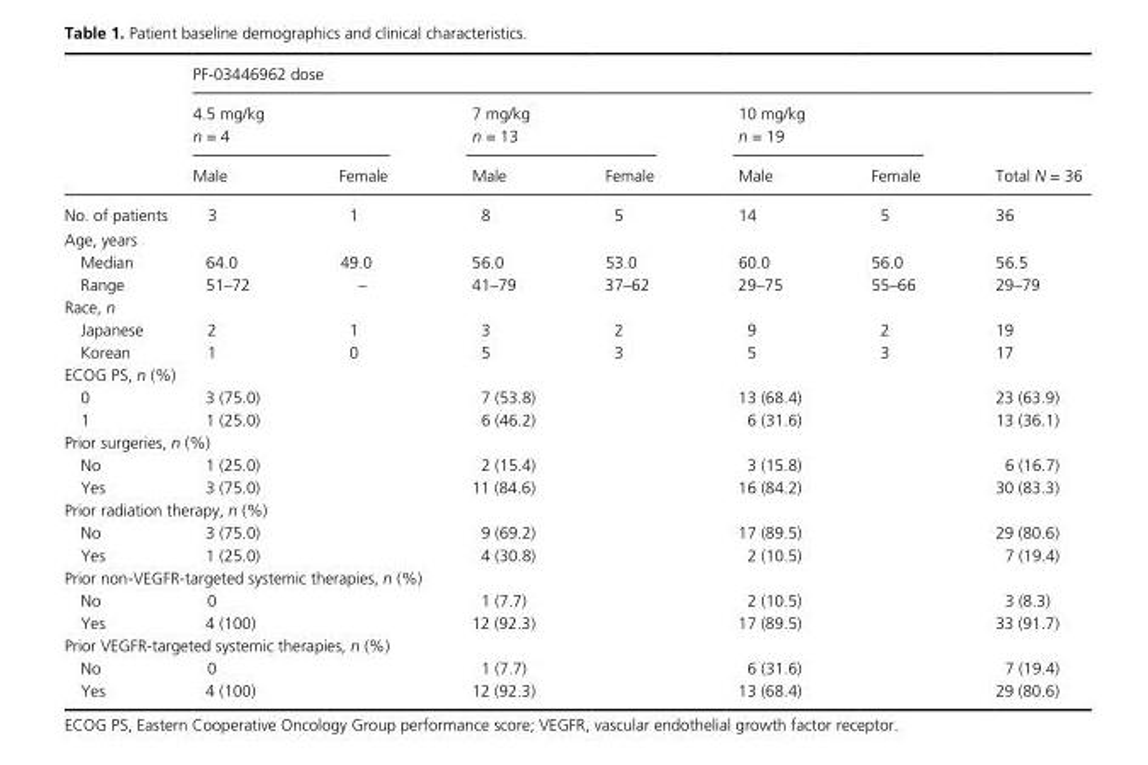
<table><thead><tr><td rowspan="3"></td><td colspan="6">PF- 03446962 dose</td><td rowspan="3">Total N = 36</td></tr><tr><td colspan="2">4.5 mg/kg n = 4</td><td colspan="2">7 mg/kg n = 13</td><td colspan="2">10 mg/kg n = 19</td></tr><tr><td>Male</td><td>Female</td><td>Male</td><td>Female</td><td>Male</td><td>Female</td></tr></thead><tbody><tr><td>No. of patients</td><td>3</td><td>1</td><td>8</td><td>5</td><td>14</td><td>5</td><td>36</td></tr><tr><td colspan="8">Age, years</td></tr><tr><td>Median</td><td>64.0</td><td>49.0</td><td>56.0</td><td>53.0</td><td>60.0</td><td>56.0</td><td>56.5</td></tr><tr><td>Range</td><td>51–72</td><td>–</td><td>41–79</td><td>37–62</td><td>29–75</td><td>55–66</td><td>29–79</td></tr><tr><td colspan="8">Race, n</td></tr><tr><td>Japanese</td><td>2</td><td>1</td><td>3</td><td>2</td><td>9</td><td>2</td><td>19</td></tr><tr><td>Korean</td><td>1</td><td>0</td><td>5</td><td>3</td><td>5</td><td>3</td><td>17</td></tr><tr><td colspan="8">ECOG PS, n (%)</td></tr><tr><td>0</td><td>3 (75.0)</td><td></td><td>7 (53.8)</td><td></td><td>13 (68.4)</td><td></td><td>23 (63.9)</td></tr><tr><td>1</td><td>1 (25.0)</td><td></td><td>6 (46.2)</td><td></td><td>6 (31.6)</td><td></td><td>13 (36.1)</td></tr><tr><td colspan="8">Prior surgeries, n (%)</td></tr><tr><td>No</td><td>1 (25.0)</td><td></td><td>2 (15.4)</td><td></td><td>3 (15.8)</td><td></td><td>6 (16.7)</td></tr><tr><td>Yes</td><td>3 (75.0)</td><td></td><td>11 (84.6)</td><td></td><td>16 (84.2)</td><td></td><td>30 (83.3)</td></tr><tr><td colspan="8">Prior radiation therapy, n (%)</td></tr><tr><td>No</td><td>3 (75.0)</td><td></td><td>9 (69.2)</td><td></td><td>17 (89.5)</td><td></td><td>29 (80.6)</td></tr><tr><td>Yes</td><td>1 (25.0)</td><td></td><td>4 (30.8)</td><td></td><td>2 (10.5)</td><td></td><td>7 (19.4)</td></tr><tr><td colspan="8">Prior non- VEGFR- targeted systemic therapies, n (%)</td></tr><tr><td>No</td><td>0</td><td></td><td>1 (7.7)</td><td></td><td>2 (10.5)</td><td></td><td>3 (8.3)</td></tr><tr><td>Yes</td><td>4 (100)</td><td></td><td>12 (92.3)</td><td></td><td>17 (89.5)</td><td></td><td>33 (91.7)</td></tr><tr><td colspan="8">Prior VEGFR- targeted systemic therapies, n (%)</td></tr><tr><td>No</td><td>0</td><td></td><td>1 (7.7)</td><td></td><td>6 (31.6)</td><td></td><td>7 (19.4)</td></tr><tr><td>Yes</td><td>4 (100)</td><td></td><td>12 (92.3)</td><td></td><td>13 (68.4)</td><td></td><td>29 (80.6)</td></tr></tbody></table>